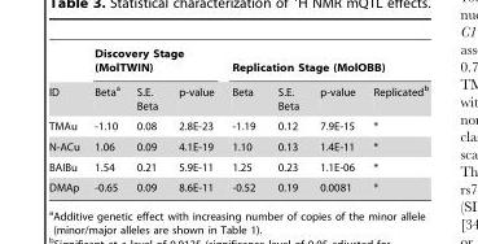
<table><thead><tr><td rowspan="2">ID</td><td colspan="3">Discovery Stage (MolTWIN)</td><td colspan="4">Replication Stage (MolOBB)</td></tr><tr><td>Beta<sup>a</sup></td><td>S.E. Beta</td><td>p-value</td><td>Beta</td><td>S.E. Beta</td><td>p-value</td><td>Replicated<sup>b</sup></td></tr></thead><tbody><tr><td>TMAu</td><td>-1.10</td><td>0.08</td><td>2.8E-23</td><td>-1.19</td><td>0.12</td><td>7.9E-15</td><td>*</td></tr><tr><td>N-ACu</td><td>1.06</td><td>0.09</td><td>4.1E-19</td><td>1.10</td><td>0.13</td><td>1.4E-11</td><td>*</td></tr><tr><td>BAIBu</td><td>1.54</td><td>0.21</td><td>5.9E-11</td><td>1.25</td><td>0.23</td><td>1.1E-06</td><td>*</td></tr><tr><td>DMAp</td><td>-0.65</td><td>0.09</td><td>8.6E-11</td><td>-0.52</td><td>0.19</td><td>0.0081</td><td>*</td></tr></tbody></table>